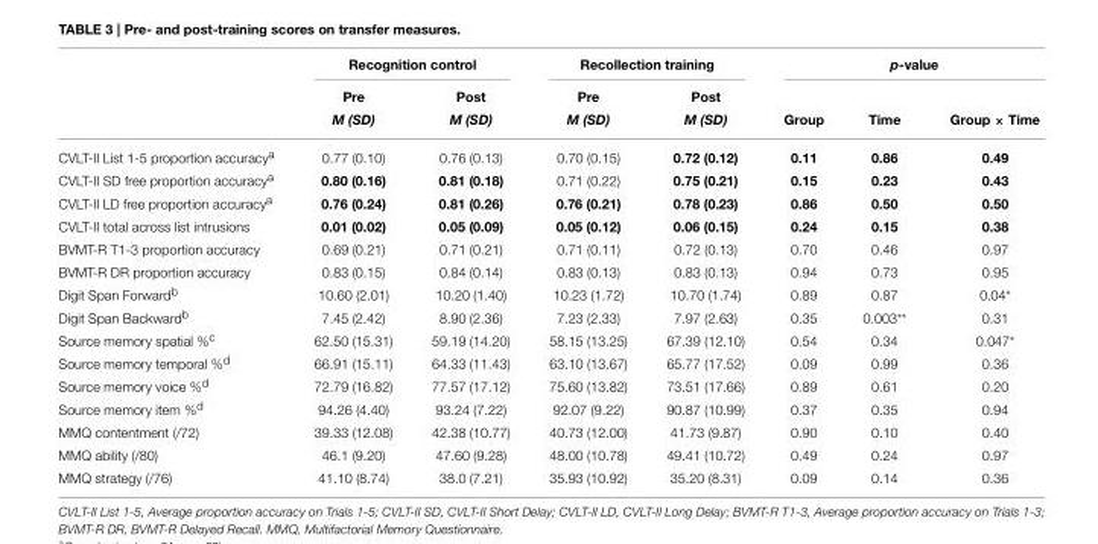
<table><thead><tr><td rowspan="3"></td><td colspan="2">Recognition control</td><td colspan="2">Recollection training</td><td colspan="3">p-value</td></tr><tr><td rowspan="2">Pre M (SD)</td><td rowspan="2">Post M (SD)</td><td rowspan="2">Pre M (SD)</td><td rowspan="2">Post M (SD)</td><td rowspan="2">Group</td><td rowspan="2">Time</td><td rowspan="2">Group × Time</td></tr><tr></tr></thead><tbody><tr><td>CVLT-II List 1-5 proportion accuracy<sup>a</sup></td><td>0.77 (0.10)</td><td>0.76 (0.13)</td><td>0.70 (0.15)</td><td>0.72 (0.12)</td><td>0.11</td><td>0.86</td><td>0.49</td></tr><tr><td>CVLT-II SD free proportion accuracy<sup>a</sup></td><td>0.80 (0.16)</td><td>0.81 (0.18)</td><td>0.71 (0.22)</td><td>0.75 (0.21)</td><td>0.15</td><td>0.23</td><td>0.43</td></tr><tr><td>CVLT-II LD free proportion accuracy<sup>a</sup></td><td>0.76 (0.24)</td><td>0.81 (0.26)</td><td>0.76 (0.21)</td><td>0.78 (0.23)</td><td>0.86</td><td>0.50</td><td>0.50</td></tr><tr><td>CVLT-II total across list intrusions</td><td>0.01 (0.02)</td><td>0.05 (0.09)</td><td>0.05 (0.12)</td><td>0.06 (0.15)</td><td>0.24</td><td>0.15</td><td>0.38</td></tr><tr><td>BVMT-R T1-3 proportion accuracy</td><td>0.69 (0.21)</td><td>0.71 (0.21)</td><td>0.71 (0.11)</td><td>0.72 (0.13)</td><td>0.70</td><td>0.46</td><td>0.97</td></tr><tr><td>BVMT-R DR proportion accuracy</td><td>0.83 (0.15)</td><td>0.84 (0.14)</td><td>0.83 (0.13)</td><td>0.83 (0.13)</td><td>0.94</td><td>0.73</td><td>0.95</td></tr><tr><td>Digit Span Forward<sup>b</sup></td><td>10.60 (2.01)</td><td>10.20 (1.40)</td><td>10.23 (1.72)</td><td>10.70 (1.74)</td><td>0.89</td><td>0.87</td><td>0.04*</td></tr><tr><td>Digit Span Backward<sup>b</sup></td><td>7.45 (2.42)</td><td>8.90 (2.36)</td><td>7.23 (2.33)</td><td>7.97 (2.63)</td><td>0.35</td><td>0.003**</td><td>0.31</td></tr><tr><td>Source memory spatial %<sup>c</sup></td><td>62.50 (15.31)</td><td>59.19 (14.20)</td><td>58.15 (13.25)</td><td>67.39 (12.10)</td><td>0.54</td><td>0.34</td><td>0.047*</td></tr><tr><td>Source memory temporal %<sup>d</sup></td><td>66.91 (15.11)</td><td>64.33 (11.43)</td><td>63.10 (13.67)</td><td>65.77 (17.52)</td><td>0.09</td><td>0.99</td><td>0.36</td></tr><tr><td>Source memory voice %<sup>d</sup></td><td>72.79 (16.82)</td><td>77.57 (17.12)</td><td>75.60 (13.82)</td><td>73.51 (17.66)</td><td>0.89</td><td>0.61</td><td>0.20</td></tr><tr><td>Source memory item %<sup>d</sup></td><td>94.26 (4.40)</td><td>93.24 (7.22)</td><td>92.07 (9.22)</td><td>90.87 (10.99)</td><td>0.37</td><td>0.35</td><td>0.94</td></tr><tr><td>MMQ contentment (/72)</td><td>39.33 (12.08)</td><td>42.38 (10.77)</td><td>40.73 (12.00)</td><td>41.73 (9.87)</td><td>0.90</td><td>0.10</td><td>0.40</td></tr><tr><td>MMQ ability (/80)</td><td>46.1 (9.20)</td><td>47.60 (9.28)</td><td>48.00 (10.78)</td><td>49.41 (10.72)</td><td>0.49</td><td>0.24</td><td>0.97</td></tr><tr><td>MMQ strategy (/76)</td><td>41.10 (8.74)</td><td>38.0 (7.21)</td><td>35.93 (10.92)</td><td>35.20 (8.31)</td><td>0.09</td><td>0.14</td><td>0.36</td></tr></tbody></table>